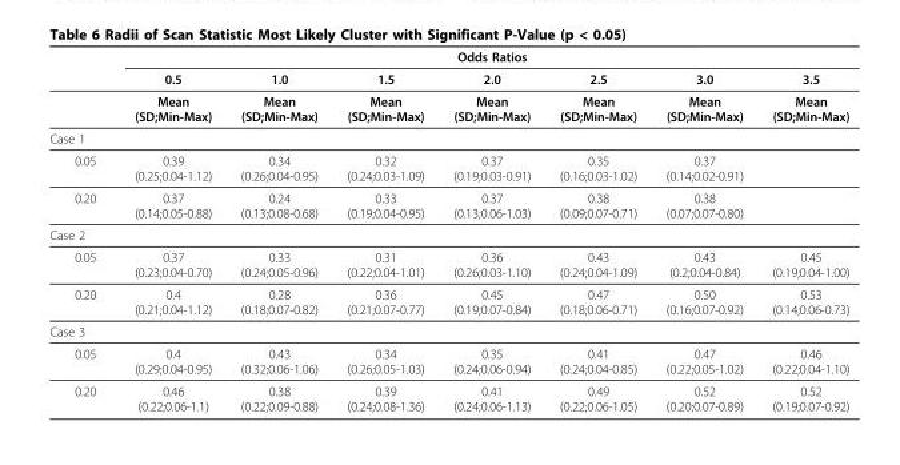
<table><thead><tr><td rowspan="2"></td><td colspan="7">Odds Ratios</td></tr><tr><td>0.5</td><td>1.0</td><td>1.5</td><td>2.0</td><td>2.5</td><td>3.0</td><td>3.5</td></tr></thead><tbody><tr><td></td><td>Mean (SD;Min-Max)</td><td>Mean (SD;Min-Max)</td><td>Mean (SD;Min-Max)</td><td>Mean (SD;Min-Max)</td><td>Mean (SD;Min-Max)</td><td>Mean (SD;Min-Max)</td><td>Mean (SD;Min-Max)</td></tr><tr><td colspan="8">Case 1</td></tr><tr><td>0.05</td><td>0.39 (0.25;0.04-1.12)</td><td>0.34 (0.26;0.04-0.95)</td><td>0.32 (0.24;0.03-1.09)</td><td>0.37 (0.19;0.03-0.91)</td><td>0.35 (0.16;0.03-1.02)</td><td>0.37 (0.14;0.02-0.91)</td><td></td></tr><tr><td>0.20</td><td>0.37 (0.14;0.05-0.88)</td><td>0.24 (0.13;0.08-0.68)</td><td>0.33 (0.19;0.04-0.95)</td><td>0.37 (0.13;0.06-1.03)</td><td>0.38 (0.09;0.07-0.71)</td><td>0.38 (0.07;0.07-0.80)</td><td></td></tr><tr><td colspan="8">Case 2</td></tr><tr><td>0.05</td><td>0.37 (0.23;0.04-0.70)</td><td>0.33 (0.24;0.05-0.96)</td><td>0.31 (0.22;0.04-1.01)</td><td>0.36 (0.26;0.03-1.10)</td><td>0.43 (0.24;0.04-1.09)</td><td>0.43 (0.2;0.04-0.84)</td><td>0.45 (0.19;0.04-1.00)</td></tr><tr><td>0.20</td><td>0.4 (0.21;0.04-1.12)</td><td>0.28 (0.18;0.07-0.82)</td><td>0.36 (0.21;0.07-0.77)</td><td>0.45 (0.19;0.07-0.84)</td><td>0.47 (0.18;0.06-0.71)</td><td>0.50 (0.16;0.07-0.92)</td><td>0.53 (0.14;0.06-0.73)</td></tr><tr><td colspan="8">Case 3</td></tr><tr><td>0.05</td><td>0.4 (0.29;0.04-0.95)</td><td>0.43 (0.32;0.06-1.06)</td><td>0.34 (0.26;0.05-1.03)</td><td>0.35 (0.24;0.06-0.94)</td><td>0.41 (0.24;0.04-0.85)</td><td>0.47 (0.22;0.05-1.02)</td><td>0.46 (0.22;0.04-1.10)</td></tr><tr><td>0.20</td><td>0.46 (0.22;0.06-1.1)</td><td>0.38 (0.22;0.09-0.88)</td><td>0.39 (0.24;0.08-1.36)</td><td>0.41 (0.24;0.06-1.13)</td><td>0.49 (0.22;0.06-1.05)</td><td>0.52 (0.20;0.07-0.89)</td><td>0.52 (0.19;0.07-0.92)</td></tr></tbody></table>